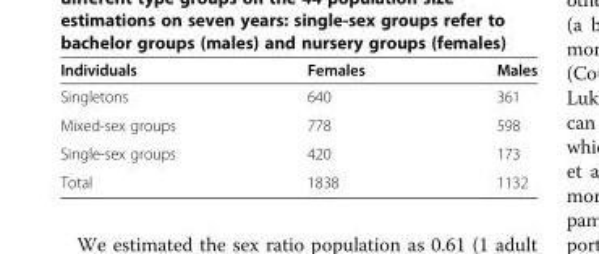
<table><thead><tr><td>Individuals</td><td>Females</td><td>Males</td></tr></thead><tbody><tr><td>Singletons</td><td>640</td><td>361</td></tr><tr><td>Mixed-sex groups</td><td>778</td><td>598</td></tr><tr><td>Single-sex groups</td><td>420</td><td>173</td></tr><tr><td>Total</td><td>1838</td><td>1132</td></tr></tbody></table>